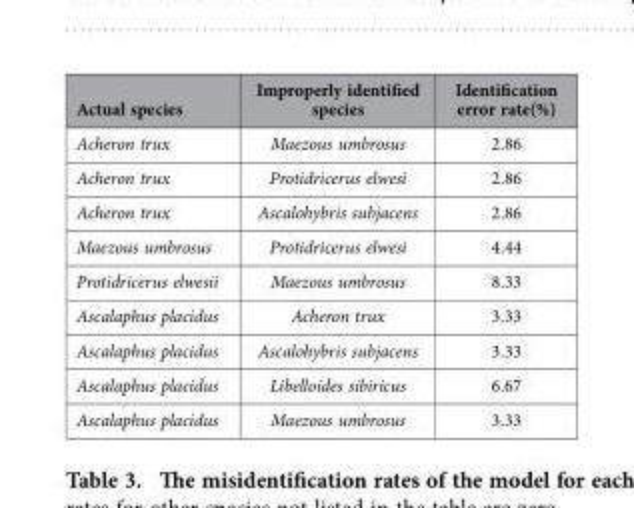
<table><thead><tr><td>Actual species</td><td>Improperly identified species</td><td>Identification error rate(%)</td></tr></thead><tbody><tr><td>Acheron trux</td><td>Maezous umbrosus</td><td>2.86</td></tr><tr><td>Acheron trux</td><td>Protidricerus elwesi</td><td>2.86</td></tr><tr><td>Acheron trux</td><td>Ascalohybris subjacens</td><td>2.86</td></tr><tr><td>Maezous umbrosus</td><td>Protidricerus elwesi</td><td>4.44</td></tr><tr><td>Protidricerus elwesii</td><td>Maezous umbrosus</td><td>8.33</td></tr><tr><td>Ascalaphus placidus</td><td>Acheron trux</td><td>3.33</td></tr><tr><td>Ascalaphus placidus</td><td>Ascalohybris subjacens</td><td>3.33</td></tr><tr><td>Ascalaphus placidus</td><td>Libelloides sibiricus</td><td>6.67</td></tr><tr><td>Ascalaphus placidus</td><td>Maezous umbrosus</td><td>3.33</td></tr></tbody></table>